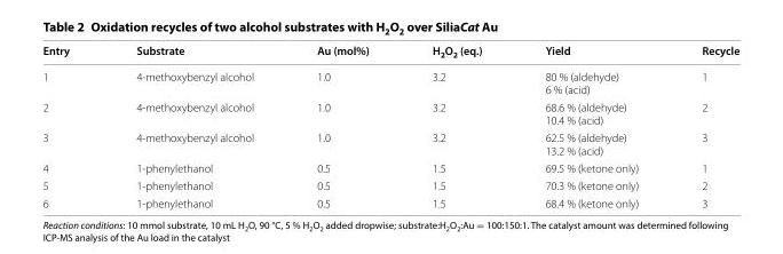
<table><thead><tr><td>Entry</td><td>Substrate</td><td>Au (mol%)</td><td>H<sub>2</sub>O<sub>2</sub> (eq.)</td><td>Yield</td><td>Recycle</td></tr></thead><tbody><tr><td>1</td><td>4-methoxybenzyl alcohol</td><td>1.0</td><td>3.2</td><td>80 % (aldehyde) 6 % (acid)</td><td>1</td></tr><tr><td>2</td><td>4-methoxybenzyl alcohol</td><td>1.0</td><td>3.2</td><td>68.6 % (aldehyde) 10.4 % (acid)</td><td>2</td></tr><tr><td>3</td><td>4-methoxybenzyl alcohol</td><td>1.0</td><td>3.2</td><td>62.5 % (aldehyde) 13.2 % (acid)</td><td>3</td></tr><tr><td>4</td><td>1-phenylethanol</td><td>0.5</td><td>1.5</td><td>69.5 % (ketone only)</td><td>1</td></tr><tr><td>5</td><td>1-phenylethanol</td><td>0.5</td><td>1.5</td><td>70.3 % (ketone only)</td><td>2</td></tr><tr><td>6</td><td>1-phenylethanol</td><td>0.5</td><td>1.5</td><td>68.4 % (ketone only)</td><td>3</td></tr></tbody></table>